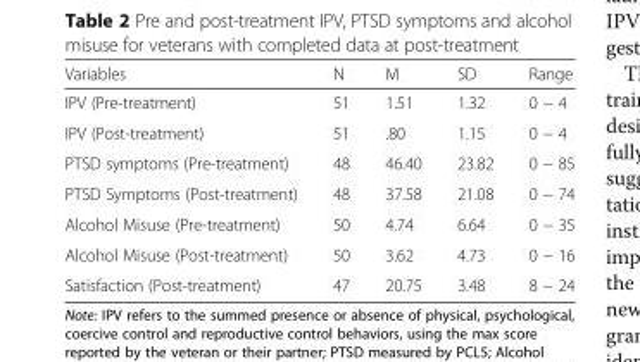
<table><thead><tr><td>Variables</td><td>N</td><td>M</td><td>SD</td><td>Range</td></tr></thead><tbody><tr><td>IPV (Pre-treatment)</td><td>51</td><td>1.51</td><td>1.32</td><td>0 − 4</td></tr><tr><td>IPV (Post-treatment)</td><td>51</td><td>.80</td><td>1.15</td><td>0 − 4</td></tr><tr><td>PTSD symptoms (Pre-treatment)</td><td>48</td><td>46.40</td><td>23.82</td><td>0 − 85</td></tr><tr><td>PTSD Symptoms (Post-treatment)</td><td>48</td><td>37.58</td><td>21.08</td><td>0 − 74</td></tr><tr><td>Alcohol Misuse (Pre-treatment)</td><td>50</td><td>4.74</td><td>6.64</td><td>0 − 35</td></tr><tr><td>Alcohol Misuse (Post-treatment)</td><td>50</td><td>3.62</td><td>4.73</td><td>0 − 16</td></tr><tr><td>Satisfaction (Post-treatment)</td><td>47</td><td>20.75</td><td>3.48</td><td>8 − 24</td></tr></tbody></table>